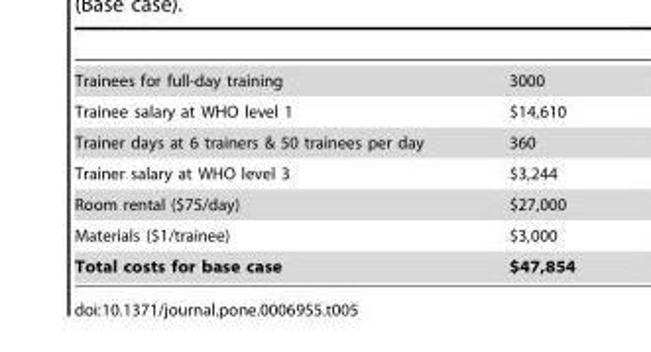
<table><tbody><tr><td>Trainees for full-day training</td><td>3000</td></tr><tr><td>Trainee salary at WHO level 1</td><td>$14,610</td></tr><tr><td>Trainer days at 6 trainers &amp; 50 trainees per day</td><td>360</td></tr><tr><td>Trainer salary at WHO level 3</td><td>$3,244</td></tr><tr><td>Room rental ($75/day)</td><td>$27,000</td></tr><tr><td>Materials ($1/trainee)</td><td>$3,000</td></tr><tr><td>Total costs for base case</td><td>$47,854</td></tr></tbody></table>